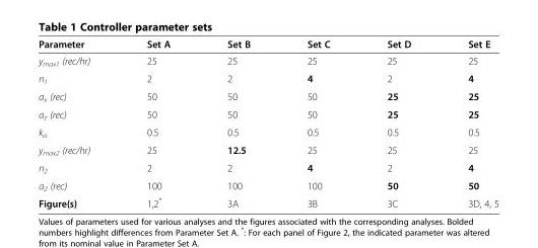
<table><thead><tr><td>Parameter</td><td>Set A</td><td>Set B</td><td>Set C</td><td>Set D</td><td>Set E</td></tr></thead><tbody><tr><td>y<sub>max1</sub> (rec/hr)</td><td>25</td><td>25</td><td>25</td><td>25</td><td>25</td></tr><tr><td>n<sub>1</sub></td><td>2</td><td>2</td><td>4</td><td>2</td><td>4</td></tr><tr><td>a<sub>x</sub> (rec)</td><td>50</td><td>50</td><td>50</td><td>25</td><td>25</td></tr><tr><td>a<sub>z</sub> (rec)</td><td>50</td><td>50</td><td>50</td><td>25</td><td>25</td></tr><tr><td>k<sub>a</sub></td><td>0.5</td><td>0.5</td><td>0.5</td><td>0.5</td><td>0.5</td></tr><tr><td>y<sub>max2</sub> (rec/hr)</td><td>25</td><td>12.5</td><td>25</td><td>25</td><td>25</td></tr><tr><td>n<sub>2</sub></td><td>2</td><td>2</td><td>4</td><td>2</td><td>4</td></tr><tr><td>a<sub>2</sub> (rec)</td><td>100</td><td>100</td><td>100</td><td>50</td><td>50</td></tr><tr><td>Figure(s)</td><td>1,2*</td><td>3A</td><td>3B</td><td>3C</td><td>3D, 4, 5</td></tr></tbody></table>